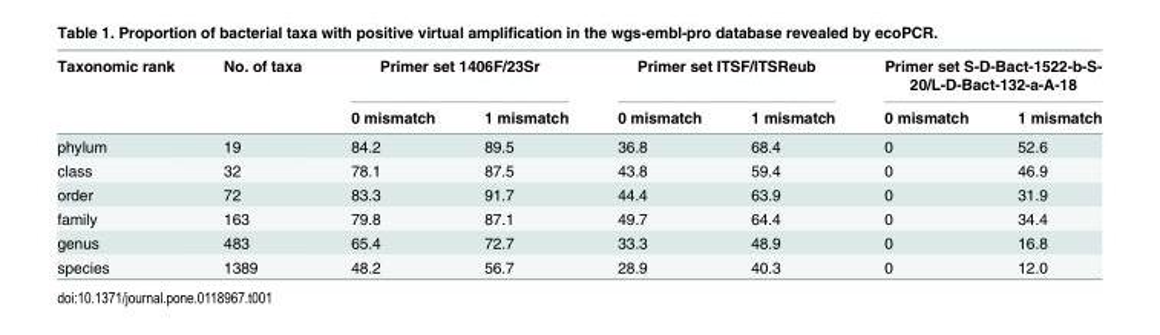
<table><thead><tr><td rowspan="2">Taxonomic rank</td><td rowspan="2">No. of taxa</td><td colspan="2">Primer set 1406F/23Sr</td><td colspan="2">Primer set ITSF/ITSReub</td><td colspan="2">Primer set S-D-Bact-1522-b-S- 20/L-D-Bact-132-a-A-18</td></tr><tr><td>0 mismatch</td><td>1 mismatch</td><td>0 mismatch</td><td>1 mismatch</td><td>0 mismatch</td><td>1 mismatch</td></tr></thead><tbody><tr><td>phylum</td><td>19</td><td>84.2</td><td>89.5</td><td>36.8</td><td>68.4</td><td>0</td><td>52.6</td></tr><tr><td>class</td><td>32</td><td>78.1</td><td>87.5</td><td>43.8</td><td>59.4</td><td>0</td><td>46.9</td></tr><tr><td>order</td><td>72</td><td>83.3</td><td>91.7</td><td>44.4</td><td>63.9</td><td>0</td><td>31.9</td></tr><tr><td>family</td><td>163</td><td>79.8</td><td>87.1</td><td>49.7</td><td>64.4</td><td>0</td><td>34.4</td></tr><tr><td>genus</td><td>483</td><td>65.4</td><td>72.7</td><td>33.3</td><td>48.9</td><td>0</td><td>16.8</td></tr><tr><td>species</td><td>1389</td><td>48.2</td><td>56.7</td><td>28.9</td><td>40.3</td><td>0</td><td>12.0</td></tr></tbody></table>